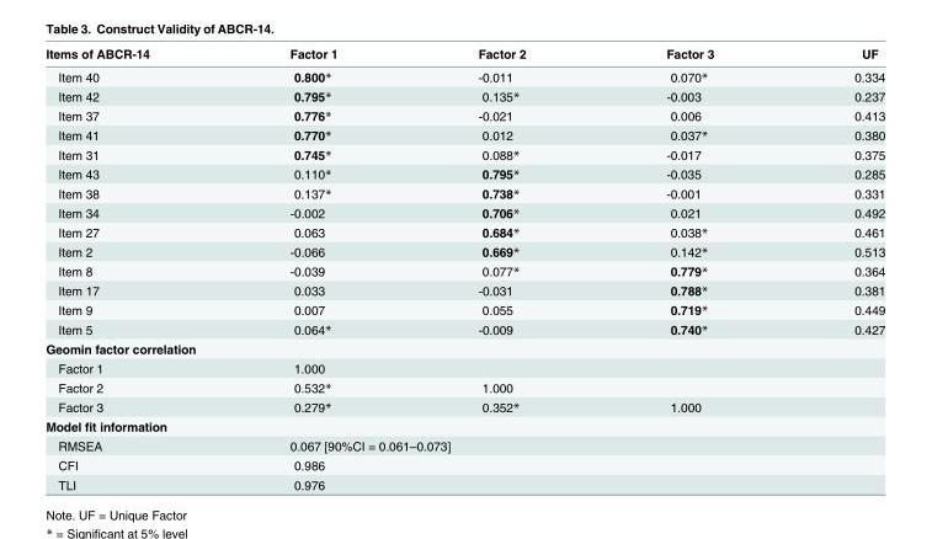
<table><thead><tr><td>Items of ABCR-14</td><td>Factor 1</td><td>Factor 2</td><td>Factor 3</td><td>UF</td></tr></thead><tbody><tr><td>Item 40</td><td>0.800*</td><td>-0.011</td><td>0.070*</td><td>0.334</td></tr><tr><td>Item 42</td><td>0.795*</td><td>0.135*</td><td>-0.003</td><td>0.237</td></tr><tr><td>Item 37</td><td>0.776*</td><td>-0.021</td><td>0.006</td><td>0.413</td></tr><tr><td>Item 41</td><td>0.770*</td><td>0.012</td><td>0.037*</td><td>0.380</td></tr><tr><td>Item 31</td><td>0.745*</td><td>0.088*</td><td>-0.017</td><td>0.375</td></tr><tr><td>Item 43</td><td>0.110*</td><td>0.795*</td><td>-0.035</td><td>0.285</td></tr><tr><td>Item 38</td><td>0.137*</td><td>0.738*</td><td>-0.001</td><td>0.331</td></tr><tr><td>Item 34</td><td>-0.002</td><td>0.706*</td><td>0.021</td><td>0.492</td></tr><tr><td>Item 27</td><td>0.063</td><td>0.684*</td><td>0.038*</td><td>0.461</td></tr><tr><td>Item 2</td><td>-0.066</td><td>0.669*</td><td>0.142*</td><td>0.513</td></tr><tr><td>Item 8</td><td>-0.039</td><td>0.077*</td><td>0.779*</td><td>0.364</td></tr><tr><td>Item 17</td><td>0.033</td><td>-0.031</td><td>0.788*</td><td>0.381</td></tr><tr><td>Item 9</td><td>0.007</td><td>0.055</td><td>0.719*</td><td>0.449</td></tr><tr><td>Item 5</td><td>0.064*</td><td>-0.009</td><td>0.740*</td><td>0.427</td></tr><tr><td colspan="5">Geomin factor correlation</td></tr><tr><td>Factor 1</td><td>1.000</td><td></td><td></td><td></td></tr><tr><td>Factor 2</td><td>0.532*</td><td>1.000</td><td></td><td></td></tr><tr><td>Factor 3</td><td>0.279*</td><td>0.352*</td><td>1.000</td><td></td></tr><tr><td colspan="5">Model fit information</td></tr><tr><td>RMSEA</td><td colspan="4">0.067 [90%CI = 0.061–0.073]</td></tr><tr><td>CFI</td><td>0.986</td><td colspan="3"></td></tr><tr><td>TLI</td><td>0.976</td><td colspan="3"></td></tr></tbody></table>